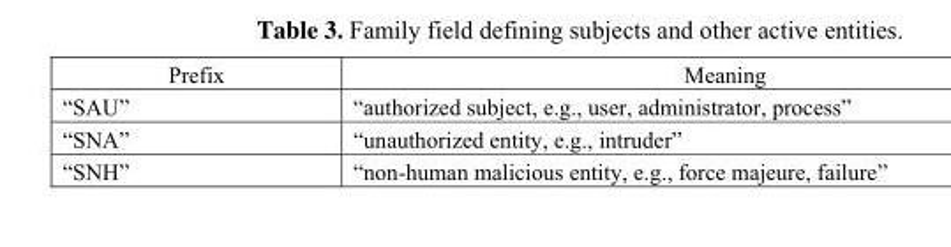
<table><thead><tr><td>Prefix</td><td>Meaning</td></tr></thead><tbody><tr><td>“SAU”</td><td>“authorized subject, e.g., user, administrator, process”</td></tr><tr><td>“SNA”</td><td>“unauthorized entity, e.g., intruder”</td></tr><tr><td>“SNH”</td><td>“non-human malicious entity, e.g., force majeure, failure”</td></tr></tbody></table>